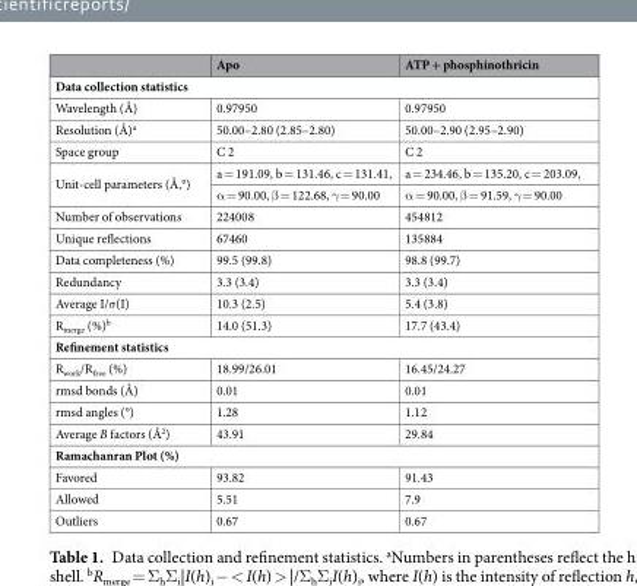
<table><thead><tr><td></td><td>Apo</td><td>ATP + phosphinothricin</td></tr></thead><tbody><tr><td colspan="3">Data collection statistics</td></tr><tr><td>Wavelength (Å)</td><td>0.97950</td><td>0.97950</td></tr><tr><td>Resolution (Å)<sup>a</sup></td><td>50.00–2.80 (2.85–2.80)</td><td>50.00–2.90 (2.95–2.90)</td></tr><tr><td>Space group</td><td>C 2</td><td>C 2</td></tr><tr><td rowspan="2">Unit-cell parameters (Å,°)</td><td>a = 191.09, b = 131.46, c = 131.41,</td><td>a = 234.46, b = 135.20, c = 203.09,</td></tr><tr><td>α = 90.00, β = 122.68, γ = 90.00</td><td>α = 90.00, β = 91.59, γ = 90.00</td></tr><tr><td>Number of observations</td><td>224008</td><td>454812</td></tr><tr><td>Unique reflections</td><td>67460</td><td>135884</td></tr><tr><td>Data completeness (%)</td><td>99.5 (99.8)</td><td>98.8 (99.7)</td></tr><tr><td>Redundancy</td><td>3.3 (3.4)</td><td>3.3 (3.4)</td></tr><tr><td>Average I/σ(I)</td><td>10.3 (2.5)</td><td>5.4 (3.8)</td></tr><tr><td>R<sub>merge</sub> (%)<sup>b</sup></td><td>14.0 (51.3)</td><td>17.7 (43.4)</td></tr><tr><td colspan="3">Refinement statistics</td></tr><tr><td>R<sub>work</sub>/R<sub>free</sub> (%)</td><td>18.99/26.01</td><td>16.45/24.27</td></tr><tr><td>rmsd bonds (Å)</td><td>0.01</td><td>0.01</td></tr><tr><td>rmsd angles (°)</td><td>1.28</td><td>1.12</td></tr><tr><td>Average B factors (Å<sup>2</sup>)</td><td>43.91</td><td>29.84</td></tr><tr><td colspan="3">Ramachanran Plot (%)</td></tr><tr><td>Favored</td><td>93.82</td><td>91.43</td></tr><tr><td>Allowed</td><td>5.51</td><td>7.9</td></tr><tr><td>Outliers</td><td>0.67</td><td>0.67</td></tr></tbody></table>